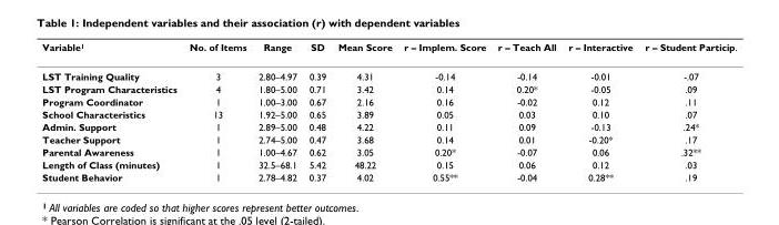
<table><thead><tr><td>Variable<sup>1</sup></td><td>No. of Items</td><td>Range</td><td>SD</td><td>Mean Score</td><td>r – Implem. Score</td><td>r – Teach All</td><td>r – Interactive</td><td>r – Student Particip.</td></tr></thead><tbody><tr><td>LST Training Quality</td><td>3</td><td>2.80–4.97</td><td>0.39</td><td>4.31</td><td>-0.14</td><td>-0.14</td><td>-0.01</td><td>-.07</td></tr><tr><td>LST Program Characteristics</td><td>4</td><td>1.80–5.00</td><td>0.71</td><td>3.42</td><td>0.14</td><td>0.20*</td><td>-0.05</td><td>.09</td></tr><tr><td>Program Coordinator</td><td>1</td><td>1.00–3.00</td><td>0.67</td><td>2.16</td><td>0.16</td><td>-0.02</td><td>0.12</td><td>.11</td></tr><tr><td>School Characteristics</td><td>13</td><td>1.92–5.00</td><td>0.65</td><td>3.89</td><td>0.05</td><td>0.03</td><td>0.10</td><td>.07</td></tr><tr><td>Admin. Support</td><td>1</td><td>2.89–5.00</td><td>0.48</td><td>4.22</td><td>0.11</td><td>0.09</td><td>-0.13</td><td>.24*</td></tr><tr><td>Teacher Support</td><td>1</td><td>2.74–5.00</td><td>0.47</td><td>3.68</td><td>0.14</td><td>0.01</td><td>-0.20*</td><td>.17</td></tr><tr><td>Parental Awareness</td><td>1</td><td>1.00–4.67</td><td>0.62</td><td>3.05</td><td>0.20*</td><td>-0.07</td><td>0.06</td><td>.32**</td></tr><tr><td>Length of Class (minutes)</td><td>1</td><td>32.5–68.1</td><td>5.42</td><td>48.22</td><td>0.15</td><td>0.06</td><td>0.12</td><td>.03</td></tr><tr><td>Student Behavior</td><td>1</td><td>2.78–4.82</td><td>0.37</td><td>4.02</td><td>0.55**</td><td>-0.04</td><td>0.28**</td><td>.19</td></tr></tbody></table>